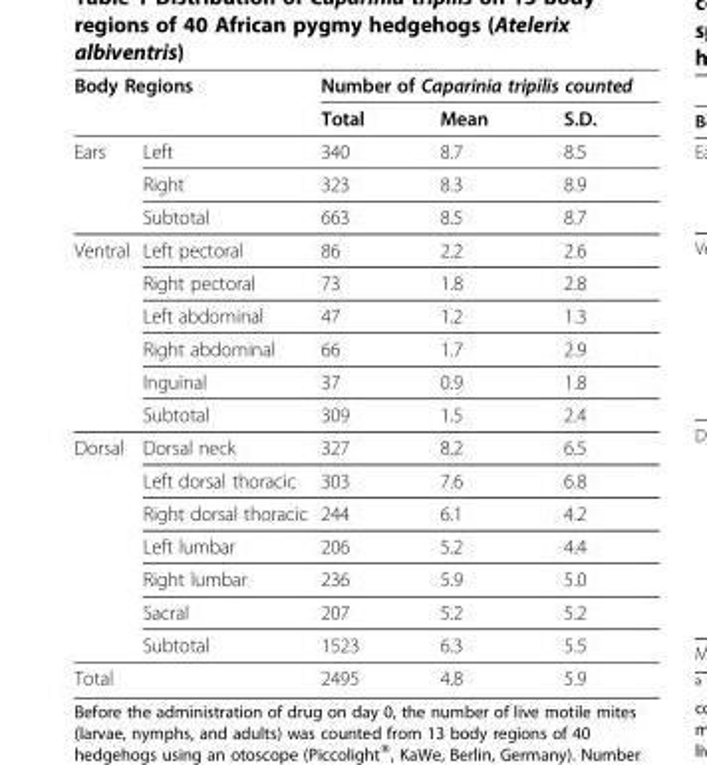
<table><thead><tr><td colspan="2">Body Regions</td><td colspan="3">Number of Caparinia tripilis counted</td></tr><tr><td></td><td></td><td>Total</td><td>Mean</td><td>S.D.</td></tr></thead><tbody><tr><td rowspan="3">Ears</td><td>Left</td><td>340</td><td>8.7</td><td>8.5</td></tr><tr><td>Right</td><td>323</td><td>8.3</td><td>8.9</td></tr><tr><td>Subtotal</td><td>663</td><td>8.5</td><td>8.7</td></tr><tr><td rowspan="6">Ventral</td><td>Left pectoral</td><td>86</td><td>2.2</td><td>2.6</td></tr><tr><td>Right pectoral</td><td>73</td><td>1.8</td><td>2.8</td></tr><tr><td>Left abdominal</td><td>47</td><td>1.2</td><td>1.3</td></tr><tr><td>Right abdominal</td><td>66</td><td>1.7</td><td>2.9</td></tr><tr><td>Inguinal</td><td>37</td><td>0.9</td><td>1.8</td></tr><tr><td>Subtotal</td><td>309</td><td>1.5</td><td>2.4</td></tr><tr><td rowspan="7">Dorsal</td><td>Dorsal neck</td><td>327</td><td>8.2</td><td>6.5</td></tr><tr><td>Left dorsal thoracic</td><td>303</td><td>7.6</td><td>6.8</td></tr><tr><td>Right dorsal thoracic</td><td>244</td><td>6.1</td><td>4.2</td></tr><tr><td>Left lumbar</td><td>206</td><td>5.2</td><td>4.4</td></tr><tr><td>Right lumbar</td><td>236</td><td>5.9</td><td>5.0</td></tr><tr><td>Sacral</td><td>207</td><td>5.2</td><td>5.2</td></tr><tr><td>Subtotal</td><td>1523</td><td>6.3</td><td>5.5</td></tr><tr><td>Total</td><td></td><td>2495</td><td>4.8</td><td>5.9</td></tr></tbody></table>